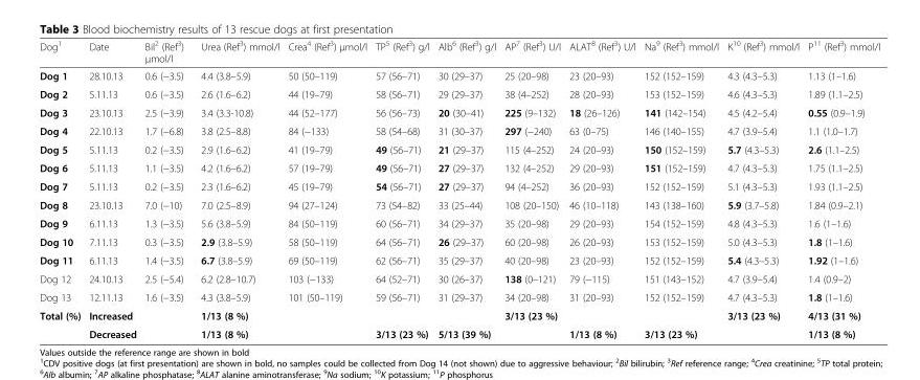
<table><thead><tr><td>Dog<sup>1</sup></td><td>Date</td><td>Bil<sup>2</sup> (Ref<sup>3</sup>) μmol/l</td><td>Urea (Ref<sup>3</sup>) mmol/l</td><td>Crea<sup>4</sup> (Ref<sup>3</sup>) μmol/l</td><td>TP<sup>5</sup> (Ref<sup>3</sup>) g/l</td><td>Alb<sup>6</sup> (Ref<sup>3</sup>) g/l</td><td>AP<sup>7</sup> (Ref<sup>3</sup>) U/l</td><td>ALAT<sup>8</sup> (Ref<sup>3</sup>) U/l</td><td>Na<sup>9</sup> (Ref<sup>3</sup>) mmol/l</td><td>K<sup>10</sup> (Ref<sup>3</sup>) mmol/l</td><td>P<sup>11</sup> (Ref<sup>3</sup>) mmol/l</td></tr></thead><tbody><tr><td>Dog 1</td><td>28.10.13</td><td>0.6 (−3.5)</td><td>4.4 (3.8–5.9)</td><td>50 (50–119)</td><td>57 (56–71)</td><td>30 (29–37)</td><td>25 (20–98)</td><td>23 (20–93)</td><td>152 (152–159)</td><td>4.3 (4.3–5.3)</td><td>1.13 (1–1.6)</td></tr><tr><td>Dog 2</td><td>5.11.13</td><td>0.6 (−3.5)</td><td>2.6 (1.6–6.2)</td><td>44 (19–79)</td><td>58 (56–71)</td><td>29 (29–37)</td><td>38 (4–252)</td><td>28 (20–93)</td><td>153 (152–159)</td><td>4.6 (4.3–5.3)</td><td>1.89 (1.1–2.5)</td></tr><tr><td>Dog 3</td><td>23.10.13</td><td>2.5 (−3.9)</td><td>3.4 (3.3-10.8)</td><td>44 (52–177)</td><td>56 (56–73)</td><td>20 (30–41)</td><td>225 (9–132)</td><td>18 (26–126)</td><td>141 (142–154)</td><td>4.5 (4.2–5.4)</td><td>0.55 (0.9–1.9)</td></tr><tr><td>Dog 4</td><td>22.10.13</td><td>1.7 (−6.8)</td><td>3.8 (2.5–8.8)</td><td>84 (−133)</td><td>58 (54–68)</td><td>31 (30–37)</td><td>297 (−240)</td><td>63 (0–75)</td><td>146 (140–155)</td><td>4.7 (3.9–5.4)</td><td>1.1 (1.0–1.7)</td></tr><tr><td>Dog 5</td><td>5.11.13</td><td>0.2 (−3.5)</td><td>2.9 (1.6–6.2)</td><td>41 (19–79)</td><td>49 (56–71)</td><td>21 (29–37)</td><td>115 (4–252)</td><td>24 (20–93)</td><td>150 (152–159)</td><td>5.7 (4.3–5.3)</td><td>2.6 (1.1–2.5)</td></tr><tr><td>Dog 6</td><td>5.11.13</td><td>1.1 (−3.5)</td><td>4.2 (1.6–6.2)</td><td>57 (19–79)</td><td>49 (56–71)</td><td>27 (29–37)</td><td>132 (4–252)</td><td>29 (20–93)</td><td>151 (152–159)</td><td>4.7 (4.3–5.3)</td><td>1.75 (1.1–2.5)</td></tr><tr><td>Dog 7</td><td>5.11.13</td><td>0.2 (−3.5)</td><td>2.3 (1.6–6.2)</td><td>45 (19–79)</td><td>54 (56–71)</td><td>27 (29–37)</td><td>94 (4–252)</td><td>36 (20–93)</td><td>152 (152–159)</td><td>5.1 (4.3–5.3)</td><td>1.93 (1.1–2.5)</td></tr><tr><td>Dog 8</td><td>23.10.13</td><td>7.0 (−10)</td><td>7.0 (2.5–8.9)</td><td>94 (27–124)</td><td>73 (54–82)</td><td>33 (25–44)</td><td>108 (20–150)</td><td>46 (10–118)</td><td>143 (138–160)</td><td>5.9 (3.7–5.8)</td><td>1.84 (0.9–2.1)</td></tr><tr><td>Dog 9</td><td>6.11.13</td><td>1.3 (−3.5)</td><td>5.6 (3.8–5.9)</td><td>84 (50–119)</td><td>60 (56–71)</td><td>34 (29–37)</td><td>35 (20–98)</td><td>29 (20–93)</td><td>154 (152–159)</td><td>4.8 (4.3–5.3)</td><td>1.6 (1–1.6)</td></tr><tr><td>Dog 10</td><td>7.11.13</td><td>0.3 (−3.5)</td><td>2.9 (3.8–5.9)</td><td>58 (50–119)</td><td>64 (56–71)</td><td>26 (29–37)</td><td>60 (20–98)</td><td>26 (20–93)</td><td>153 (152–159)</td><td>5.0 (4.3–5.3)</td><td>1.8 (1–1.6)</td></tr><tr><td>Dog 11</td><td>6.11.13</td><td>1.4 (−3.5)</td><td>6.7 (3.8–5.9)</td><td>69 (50–119)</td><td>62 (56–71)</td><td>35 (29–37)</td><td>40 (20–98)</td><td>23 (20–93)</td><td>152 (152–159)</td><td>5.4 (4.3–5.3)</td><td>1.92 (1–1.6)</td></tr><tr><td>Dog 12</td><td>24.10.13</td><td>2.5 (−5.4)</td><td>6.2 (2.8–10.7)</td><td>103 (−133)</td><td>64 (52–71)</td><td>30 (26–37)</td><td>138 (0–121)</td><td>79 (−115)</td><td>151 (143–152)</td><td>4.7 (3.9–5.4)</td><td>1.4 (0.9–2)</td></tr><tr><td>Dog 13</td><td>12.11.13</td><td>1.6 (−3.5)</td><td>4.3 (3.8–5.9)</td><td>101 (50–119)</td><td>59 (56–71)</td><td>31 (29–37)</td><td>34 (20–98)</td><td>31 (20–93)</td><td>152 (152–159)</td><td>4.7 (4.3–5.3)</td><td>1.8 (1–1.6)</td></tr><tr><td rowspan="2">Total (%)</td><td>Increased</td><td></td><td>1/13 (8 %)</td><td></td><td></td><td></td><td>3/13 (23 %)</td><td></td><td></td><td>3/13 (23 %)</td><td>4/13 (31 %)</td></tr><tr><td>Decreased</td><td></td><td>1/13 (8 %)</td><td></td><td>3/13 (23 %)</td><td>5/13 (39 %)</td><td></td><td>1/13 (8 %)</td><td>3/13 (23 %)</td><td></td><td>1/13 (8 %)</td></tr></tbody></table>